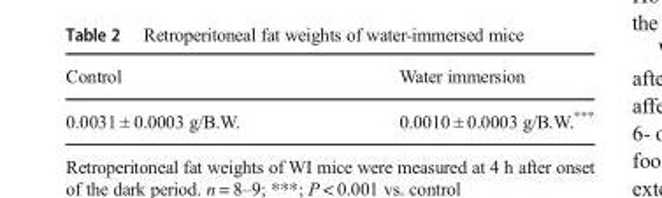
<table><thead><tr><td>Control</td><td>Water immersion</td></tr></thead><tbody><tr><td>0.0031 ± 0.0003 g/B.W.</td><td>0.0010 ± 0.0003 g/B.W.***</td></tr></tbody></table>